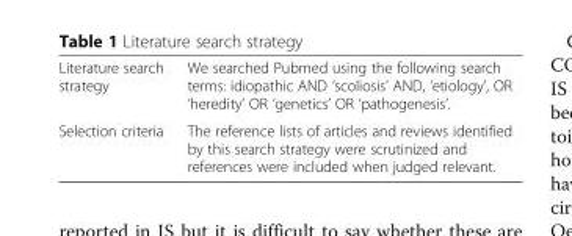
<table><tbody><tr><td>Literature search strategy</td><td>We searched Pubmed using the following search terms: idiopathic AND ‘scoliosis’ AND, ‘etiology’, OR ‘heredity’ OR ‘genetics’ OR ‘pathogenesis’.</td></tr><tr><td>Selection criteria</td><td>The reference lists of articles and reviews identified by this search strategy were scrutinized and references were included when judged relevant.</td></tr></tbody></table>